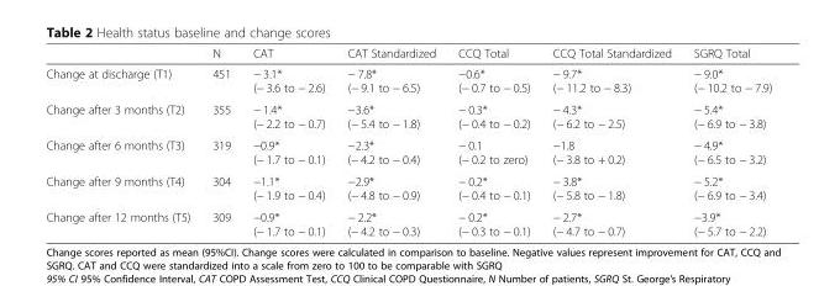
<table><thead><tr><td></td><td>N</td><td>CAT</td><td>CAT Standardized</td><td>CCQ Total</td><td>CCQ Total Standardized</td><td>SGRQ Total</td></tr></thead><tbody><tr><td>Change at discharge (T1)</td><td>451</td><td>− 3.1* (− 3.6 to − 2.6)</td><td>− 7.8* (− 9.1 to − 6.5)</td><td>−0.6* (− 0.7 to − 0.5)</td><td>− 9.7* (− 11.2 to − 8.3)</td><td>− 9.0* (− 10.2 to − 7.9)</td></tr><tr><td>Change after 3 months (T2)</td><td>355</td><td>− 1.4* (− 2.2 to − 0.7)</td><td>−3.6* (− 5.4 to − 1.8)</td><td>− 0.3* (− 0.4 to − 0.2)</td><td>− 4.3* (− 6.2 to − 2.5)</td><td>− 5.4* (− 6.9 to − 3.8)</td></tr><tr><td>Change after 6 months (T3)</td><td>319</td><td>−0.9* (− 1.7 to − 0.1)</td><td>−2.3* (− 4.2 to − 0.4)</td><td>− 0.1 (− 0.2 to zero)</td><td>−1.8 (− 3.8 to + 0.2)</td><td>− 4.9* (− 6.5 to − 3.2)</td></tr><tr><td>Change after 9 months (T4)</td><td>304</td><td>−1.1* (− 1.9 to − 0.4)</td><td>−2.9* (− 4.8 to − 0.9)</td><td>− 0.2* (− 0.4 to − 0.1)</td><td>− 3.8* (− 5.8 to − 1.8)</td><td>− 5.2* (− 6.9 to − 3.4)</td></tr><tr><td>Change after 12 months (T5)</td><td>309</td><td>−0.9* (− 1.7 to − 0.1)</td><td>− 2.2* (− 4.2 to − 0.3)</td><td>− 0.2* (− 0.3 to − 0.1)</td><td>− 2.7* (− 4.7 to − 0.7)</td><td>−3.9* (− 5.7 to − 2.2)</td></tr></tbody></table>